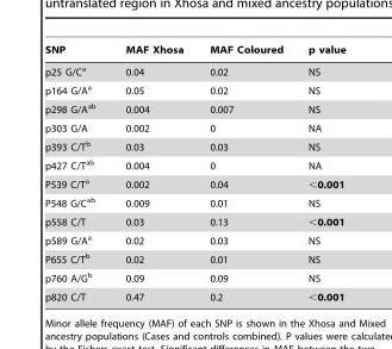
<table><thead><tr><td>SNP</td><td>MAF Xhosa</td><td>MAF Coloured</td><td>p value</td></tr></thead><tbody><tr><td>p25 G/C<sup>a</sup></td><td>0.04</td><td>0.02</td><td>NS</td></tr><tr><td>p164 G/A<sup>a</sup></td><td>0.05</td><td>0.02</td><td>NS</td></tr><tr><td>p298 G/A<sup>ab</sup></td><td>0.004</td><td>0.007</td><td>NS</td></tr><tr><td>p303 G/A</td><td>0.002</td><td>0</td><td>NA</td></tr><tr><td>p393 C/T<sup>b</sup></td><td>0.03</td><td>0.03</td><td>NS</td></tr><tr><td>p427 C/T<sup>ab</sup></td><td>0.004</td><td>0</td><td>NA</td></tr><tr><td>P539 C/T<sup>a</sup></td><td>0.002</td><td>0.04</td><td>&lt;0.001</td></tr><tr><td>P548 G/C<sup>ab</sup></td><td>0.009</td><td>0.01</td><td>NS</td></tr><tr><td>p558 C/T</td><td>0.03</td><td>0.13</td><td>&lt;0.001</td></tr><tr><td>p589 G/A<sup>a</sup></td><td>0.02</td><td>0.03</td><td>NS</td></tr><tr><td>P655 C/T<sup>b</sup></td><td>0.02</td><td>0.01</td><td>NS</td></tr><tr><td>p760 A/G<sup>b</sup></td><td>0.09</td><td>0.09</td><td>NS</td></tr><tr><td>p820 C/T</td><td>0.47</td><td>0.2</td><td>&lt;0.001</td></tr></tbody></table>